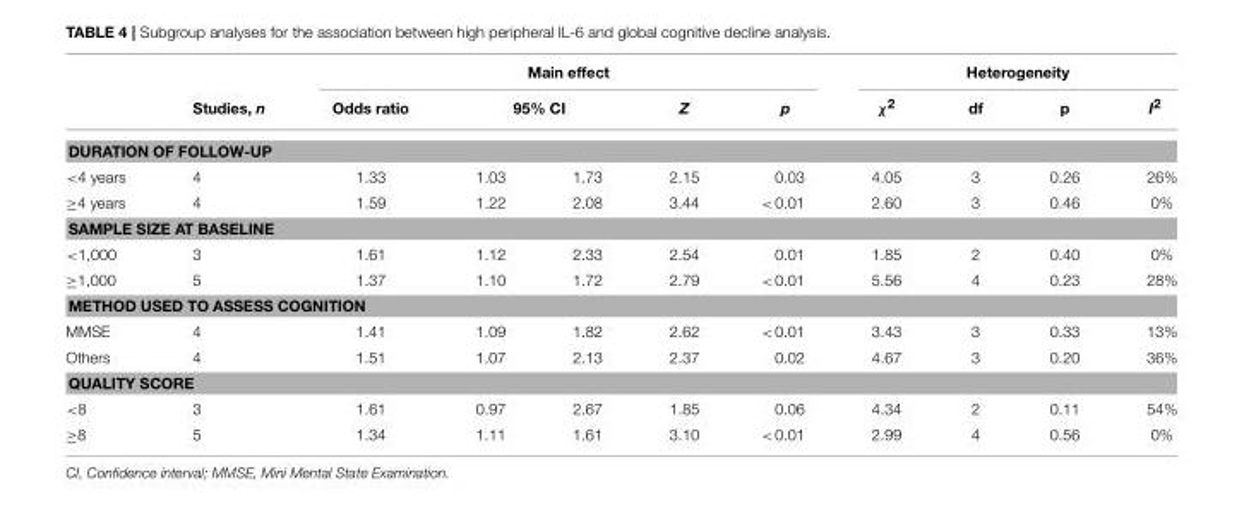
<table><thead><tr><td rowspan="2"></td><td rowspan="2">Studies, n</td><td colspan="5">Main effect</td><td colspan="4">Heterogeneity</td></tr><tr><td>Odds ratio</td><td colspan="2">95% CI</td><td>Z</td><td>p</td><td>χ<sup>2</sup></td><td>df</td><td>p</td><td>I<sup>2</sup></td></tr><tr><td colspan="11">DURATION OF FOLLOW-UP</td></tr><tr><td>&lt;4 years</td><td>4</td><td>1.33</td><td>1.03</td><td>1.73</td><td>2.15</td><td>0.03</td><td>4.05</td><td>3</td><td>0.26</td><td>26%</td></tr></thead><tbody><tr><td>≥4 years</td><td>4</td><td>1.59</td><td>1.22</td><td>2.08</td><td>3.44</td><td>&lt;0.01</td><td>2.60</td><td>3</td><td>0.46</td><td>0%</td></tr><tr><td colspan="11">SAMPLE SIZE AT BASELINE</td></tr><tr><td>&lt;1,000</td><td>3</td><td>1.61</td><td>1.12</td><td>2.33</td><td>2.54</td><td>0.01</td><td>1.85</td><td>2</td><td>0.40</td><td>0%</td></tr><tr><td>≥1,000</td><td>5</td><td>1.37</td><td>1.10</td><td>1.72</td><td>2.79</td><td>&lt;0.01</td><td>5.56</td><td>4</td><td>0.23</td><td>28%</td></tr><tr><td colspan="11">METHOD USED TO ASSESS COGNITION</td></tr><tr><td>MMSE</td><td>4</td><td>1.41</td><td>1.09</td><td>1.82</td><td>2.62</td><td>&lt;0.01</td><td>3.43</td><td>3</td><td>0.33</td><td>13%</td></tr><tr><td>Others</td><td>4</td><td>1.51</td><td>1.07</td><td>2.13</td><td>2.37</td><td>0.02</td><td>4.67</td><td>3</td><td>0.20</td><td>36%</td></tr><tr><td colspan="11">QUALITY SCORE</td></tr><tr><td>&lt;8</td><td>3</td><td>1.61</td><td>0.97</td><td>2.67</td><td>1.85</td><td>0.06</td><td>4.34</td><td>2</td><td>0.11</td><td>54%</td></tr><tr><td>≥8</td><td>5</td><td>1.34</td><td>1.11</td><td>1.61</td><td>3.10</td><td>&lt;0.01</td><td>2.99</td><td>4</td><td>0.56</td><td>0%</td></tr></tbody></table>